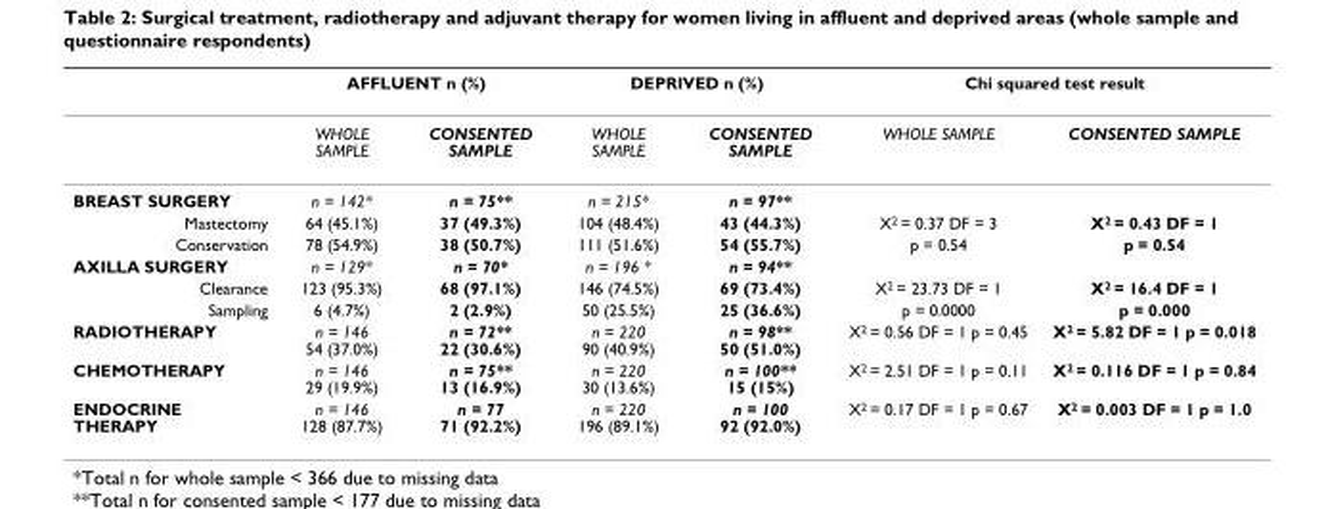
<table><thead><tr><td rowspan="2"></td><td colspan="2">AFFLUENT n (%)</td><td colspan="2">DEPRIVED n (%)</td><td colspan="2">Chi squared test result</td></tr><tr><td>WHOLE SAMPLE</td><td>CONSENTED SAMPLE</td><td>WHOLE SAMPLE</td><td>CONSENTED SAMPLE</td><td>WHOLE SAMPLE</td><td>CONSENTED SAMPLE</td></tr></thead><tbody><tr><td>BREAST SURGERY</td><td>n = 142*</td><td>n = 75**</td><td>n = 215*</td><td>n = 97**</td><td></td><td></td></tr><tr><td>Mastectomy</td><td>64 (45.1%)</td><td>37 (49.3%)</td><td>104 (48.4%)</td><td>43 (44.3%)</td><td>X<sup>2</sup> = 0.37 DF = 3</td><td>X<sup>2</sup> = 0.43 DF = 1</td></tr><tr><td>Conservation</td><td>78 (54.9%)</td><td>38 (50.7%)</td><td>111 (51.6%)</td><td>54 (55.7%)</td><td>p = 0.54</td><td>p = 0.54</td></tr><tr><td>AXILLA SURGERY</td><td>n = 129*</td><td>n = 70*</td><td>n = 196 *</td><td>n = 94**</td><td></td><td></td></tr><tr><td>Clearance</td><td>123 (95.3%)</td><td>68 (97.1%)</td><td>146 (74.5%)</td><td>69 (73.4%)</td><td>X<sup>2</sup> = 23.73 DF = 1</td><td>X<sup>2</sup> = 16.4 DF = 1</td></tr><tr><td>Sampling</td><td>6 (4.7%)</td><td>2 (2.9%)</td><td>50 (25.5%)</td><td>25 (36.6%)</td><td>p = 0.0000</td><td>p = 0.000</td></tr><tr><td>RADIOTHERAPY</td><td>n = 146 54 (37.0%)</td><td>n = 72** 22 (30.6%)</td><td>n = 220 90 (40.9%)</td><td>n = 98** 50 (51.0%)</td><td>X<sup>2</sup> = 0.56 DF = 1 p = 0.45</td><td>X<sup>2</sup> = 5.82 DF = 1 p = 0.018</td></tr><tr><td>CHEMOTHERAPY</td><td>n = 146 29 (19.9%)</td><td>n = 75** 13 (16.9%)</td><td>n = 220 30 (13.6%)</td><td>n = 100** 15 (15%)</td><td>X<sup>2</sup> = 2.51 DF = 1 p = 0.11</td><td>X<sup>2</sup> = 0.116 DF = 1 p = 0.84</td></tr><tr><td>ENDOCRINE THERAPY</td><td>n = 146 128 (87.7%)</td><td>n = 77 71 (92.2%)</td><td>n = 220 196 (89.1%)</td><td>n = 100 92 (92.0%)</td><td>X<sup>2</sup> = 0.17 DF = 1 p = 0.67</td><td>X<sup>2</sup> = 0.003 DF = 1 p = 1.0</td></tr></tbody></table>